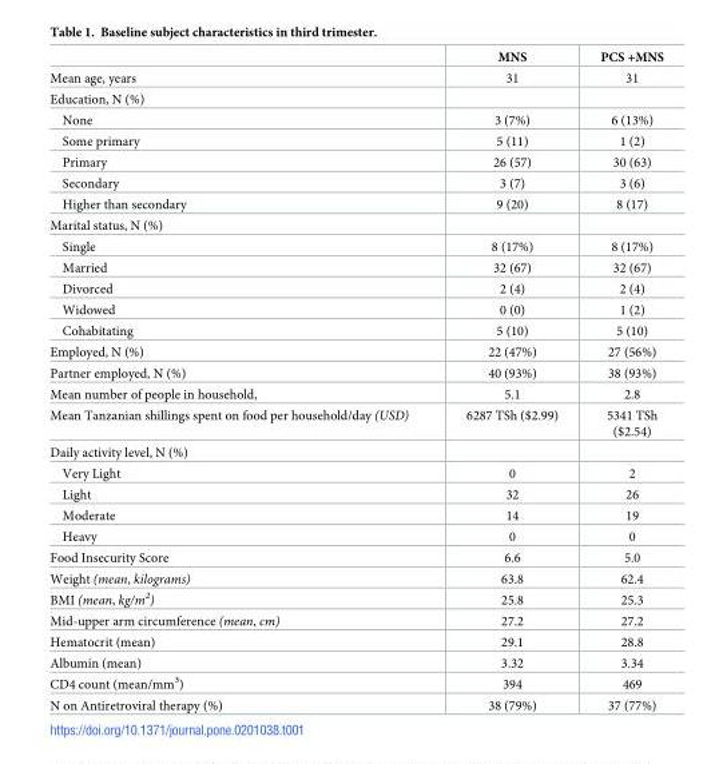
<table><thead><tr><td></td><td>MNS</td><td>PCS +MNS</td></tr></thead><tbody><tr><td>Mean age, years</td><td>31</td><td>31</td></tr><tr><td colspan="3">Education, N (%)</td></tr><tr><td>None</td><td>3 (7%)</td><td>6 (13%)</td></tr><tr><td>Some primary</td><td>5 (11)</td><td>1 (2)</td></tr><tr><td>Primary</td><td>26 (57)</td><td>30 (63)</td></tr><tr><td>Secondary</td><td>3 (7)</td><td>3 (6)</td></tr><tr><td>Higher than secondary</td><td>9 (20)</td><td>8 (17)</td></tr><tr><td colspan="3">Marital status, N (%)</td></tr><tr><td>Single</td><td>8 (17%)</td><td>8 (17%)</td></tr><tr><td>Married</td><td>32 (67)</td><td>32 (67)</td></tr><tr><td>Divorced</td><td>2 (4)</td><td>2 (4)</td></tr><tr><td>Widowed</td><td>0 (0)</td><td>1 (2)</td></tr><tr><td>Cohabitating</td><td>5 (10)</td><td>5 (10)</td></tr><tr><td>Employed, N (%)</td><td>22 (47%)</td><td>27 (56%)</td></tr><tr><td>Partner employed, N (%)</td><td>40 (93%)</td><td>38 (93%)</td></tr><tr><td>Mean number of people in household,</td><td>5.1</td><td>2.8</td></tr><tr><td>Mean Tanzanian shillings spent on food per household/day (USD)</td><td>6287 TSh ($2.99)</td><td>5341 TSh ($2.54)</td></tr><tr><td colspan="3">Daily activity level, N (%)</td></tr><tr><td>Very Light</td><td>0</td><td>2</td></tr><tr><td>Light</td><td>32</td><td>26</td></tr><tr><td>Moderate</td><td>14</td><td>19</td></tr><tr><td>Heavy</td><td>0</td><td>0</td></tr><tr><td>Food Insecurity Score</td><td>6.6</td><td>5.0</td></tr><tr><td>Weight (mean, kilograms)</td><td>63.8</td><td>62.4</td></tr><tr><td>BMI (mean, kg/m<sup>2</sup>)</td><td>25.8</td><td>25.3</td></tr><tr><td>Mid-upper arm circumference (mean, cm)</td><td>27.2</td><td>27.2</td></tr><tr><td>Hematocrit (mean)</td><td>29.1</td><td>28.8</td></tr><tr><td>Albumin (mean)</td><td>3.32</td><td>3.34</td></tr><tr><td>CD4 count (mean/mm<sup>3</sup>)</td><td>394</td><td>469</td></tr><tr><td>N on Antiretroviral therapy (%)</td><td>38 (79%)</td><td>37 (77%)</td></tr></tbody></table>